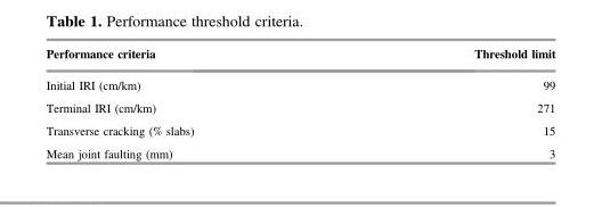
<table><thead><tr><td>Performance criteria</td><td>Threshold limit</td></tr></thead><tbody><tr><td>Initial IRI (cm/km)</td><td>99</td></tr><tr><td>Terminal IRI (cm/km)</td><td>271</td></tr><tr><td>Transverse cracking (% slabs)</td><td>15</td></tr><tr><td>Mean joint faulting (mm)</td><td>3</td></tr></tbody></table>